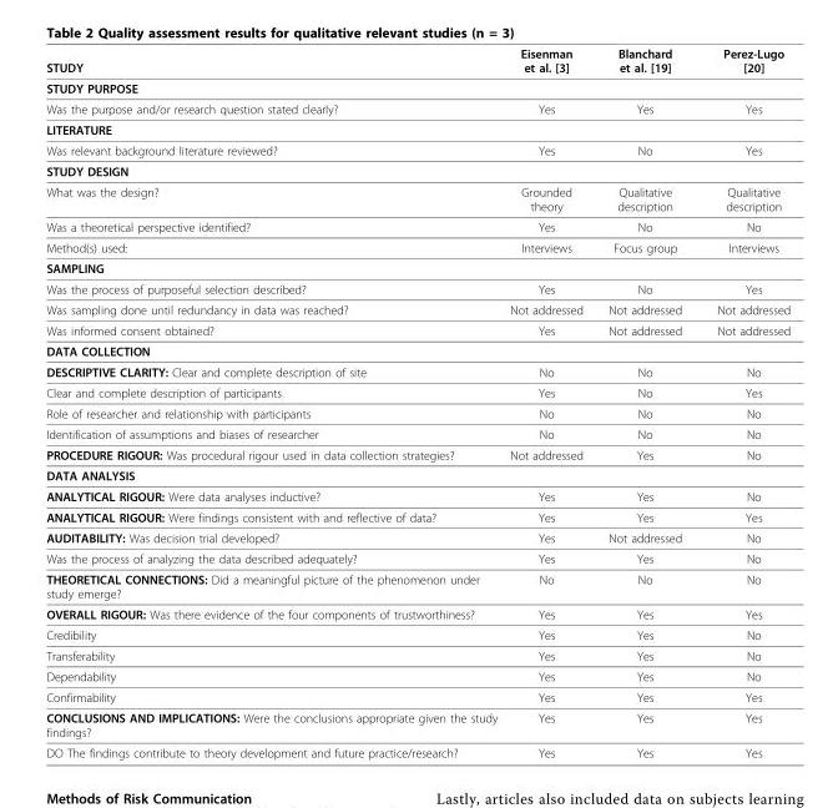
<table><thead><tr><td>STUDY</td><td>Eisenman et al. [3]</td><td>Blanchard et al. [19]</td><td>Perez-Lugo [20]</td></tr></thead><tbody><tr><td colspan="4">STUDY PURPOSE</td></tr><tr><td>Was the purpose and/or research question stated clearly?</td><td>Yes</td><td>Yes</td><td>Yes</td></tr><tr><td colspan="4">LITERATURE</td></tr><tr><td>Was relevant background literature reviewed?</td><td>Yes</td><td>No</td><td>Yes</td></tr><tr><td colspan="4">STUDY DESIGN</td></tr><tr><td>What was the design?</td><td>Grounded theory</td><td>Qualitative description</td><td>Qualitative description</td></tr><tr><td>Was a theoretical perspective identified?</td><td>Yes</td><td>No</td><td>No</td></tr><tr><td>Method(s) used:</td><td>Interviews</td><td>Focus group</td><td>Interviews</td></tr><tr><td colspan="4">SAMPLING</td></tr><tr><td>Was the process of purposeful selection described?</td><td>Yes</td><td>No</td><td>Yes</td></tr><tr><td>Was sampling done until redundancy in data was reached?</td><td>Not addressed</td><td>Not addressed</td><td>Not addressed</td></tr><tr><td>Was informed consent obtained?</td><td>Yes</td><td>Not addressed</td><td>Not addressed</td></tr><tr><td colspan="4">DATA COLLECTION</td></tr><tr><td>DESCRIPTIVE CLARITY: Clear and complete description of site</td><td>No</td><td>No</td><td>No</td></tr><tr><td>Clear and complete description of participants</td><td>Yes</td><td>No</td><td>Yes</td></tr><tr><td>Role of researcher and relationship with participants</td><td>No</td><td>No</td><td>No</td></tr><tr><td>Identification of assumptions and biases of researcher</td><td>No</td><td>No</td><td>No</td></tr><tr><td>PROCEDURE RIGOUR: Was procedural rigour used in data collection strategies?</td><td>Not addressed</td><td>Yes</td><td>No</td></tr><tr><td colspan="4">DATA ANALYSIS</td></tr><tr><td>ANALYTICAL RIGOUR: Were data analyses inductive?</td><td>Yes</td><td>Yes</td><td>No</td></tr><tr><td>ANALYTICAL RIGOUR: Were findings consistent with and reflective of data?</td><td>Yes</td><td>Yes</td><td>Yes</td></tr><tr><td>AUDITABILITY: Was decision trial developed?</td><td>Yes</td><td>Not addressed</td><td>No</td></tr><tr><td>Was the process of analyzing the data described adequately?</td><td>Yes</td><td>Yes</td><td>No</td></tr><tr><td>THEORETICAL CONNECTIONS: Did a meaningful picture of the phenomenon under study emerge?</td><td>No</td><td>No</td><td>No</td></tr><tr><td>OVERALL RIGOUR: Was there evidence of the four components of trustworthiness?</td><td>Yes</td><td>Yes</td><td>Yes</td></tr><tr><td>Credibility</td><td>Yes</td><td>Yes</td><td>No</td></tr><tr><td>Transferability</td><td>Yes</td><td>Yes</td><td>No</td></tr><tr><td>Dependability</td><td>Yes</td><td>Yes</td><td>No</td></tr><tr><td>Confirmability</td><td>Yes</td><td>Yes</td><td>Yes</td></tr><tr><td>CONCLUSIONS AND IMPLICATIONS: Were the conclusions appropriate given the study findings?</td><td>Yes</td><td>Yes</td><td>Yes</td></tr><tr><td>DO The findings contribute to theory development and future practice/research?</td><td>Yes</td><td>Yes</td><td>Yes</td></tr></tbody></table>